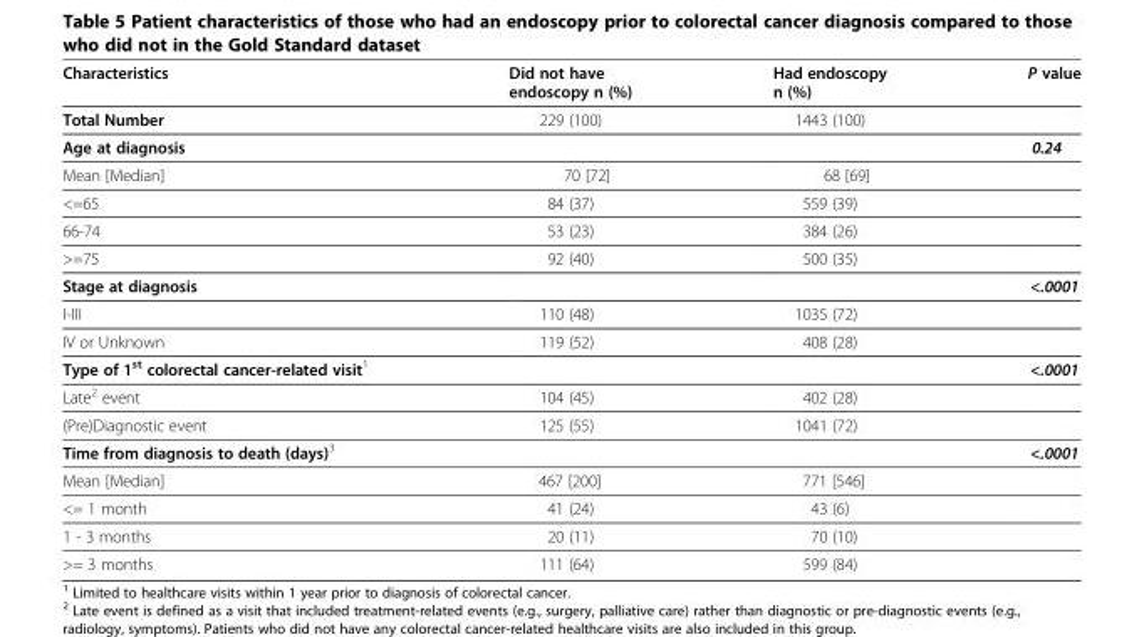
<table><thead><tr><td>Characteristics</td><td>Did not have endoscopy n (%)</td><td>Had endoscopy n (%)</td><td>P value</td></tr></thead><tbody><tr><td>Total Number</td><td>229 (100)</td><td>1443 (100)</td><td></td></tr><tr><td>Age at diagnosis</td><td></td><td></td><td>0.24</td></tr><tr><td>Mean [Median]</td><td>70 [72]</td><td>68 [69]</td><td></td></tr><tr><td>&lt;=65</td><td>84 (37)</td><td>559 (39)</td><td></td></tr><tr><td>66-74</td><td>53 (23)</td><td>384 (26)</td><td></td></tr><tr><td>&gt;=75</td><td>92 (40)</td><td>500 (35)</td><td></td></tr><tr><td>Stage at diagnosis</td><td></td><td></td><td>&lt;.0001</td></tr><tr><td>I-III</td><td>110 (48)</td><td>1035 (72)</td><td></td></tr><tr><td>IV or Unknown</td><td>119 (52)</td><td>408 (28)</td><td></td></tr><tr><td>Type of 1<sup>st</sup> colorectal cancer-related visit<sup>1</sup></td><td></td><td></td><td>&lt;.0001</td></tr><tr><td>Late<sup>2</sup> event</td><td>104 (45)</td><td>402 (28)</td><td></td></tr><tr><td>(Pre)Diagnostic event</td><td>125 (55)</td><td>1041 (72)</td><td></td></tr><tr><td>Time from diagnosis to death (days)<sup>3</sup></td><td></td><td></td><td>&lt;.0001</td></tr><tr><td>Mean [Median]</td><td>467 [200]</td><td>771 [546]</td><td></td></tr><tr><td>&lt;= 1 month</td><td>41 (24)</td><td>43 (6)</td><td></td></tr><tr><td>1 - 3 months</td><td>20 (11)</td><td>70 (10)</td><td></td></tr><tr><td>&gt;= 3 months</td><td>111 (64)</td><td>599 (84)</td><td></td></tr></tbody></table>